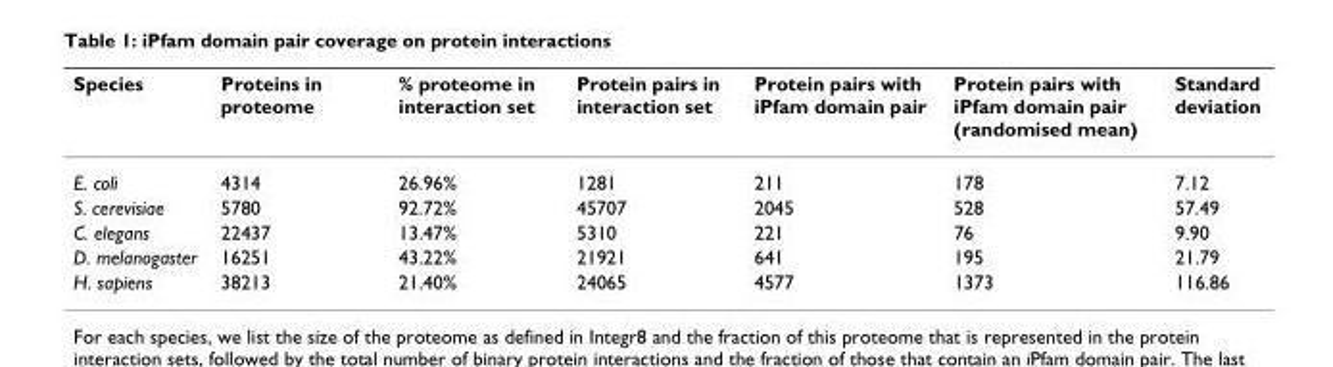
<table><thead><tr><td>Species</td><td>Proteins in proteome</td><td>% proteome in interaction set</td><td>Protein pairs in interaction set</td><td>Protein pairs with iPfam domain pair</td><td>Protein pairs with iPfam domain pair (randomised mean)</td><td>Standard deviation</td></tr></thead><tbody><tr><td>E. coli</td><td>4314</td><td>26.96%</td><td>1281</td><td>211</td><td>178</td><td>7.12</td></tr><tr><td>S. cerevisiae</td><td>5780</td><td>92.72%</td><td>45707</td><td>2045</td><td>528</td><td>57.49</td></tr><tr><td>C. elegans</td><td>22437</td><td>13.47%</td><td>5310</td><td>221</td><td>76</td><td>9.90</td></tr><tr><td>D. melanogaster</td><td>16251</td><td>43.22%</td><td>21921</td><td>641</td><td>195</td><td>21.79</td></tr><tr><td>H. sapiens</td><td>38213</td><td>21.40%</td><td>24065</td><td>4577</td><td>1373</td><td>116.86</td></tr></tbody></table>